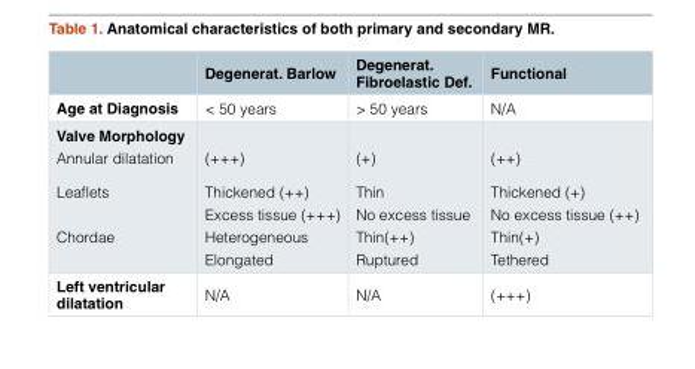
<table><thead><tr><td></td><td>Degenerat. Barlow</td><td>Degenerat. Fibroelastic Def.</td><td>Functional</td></tr></thead><tbody><tr><td>Age at Diagnosis</td><td>&lt; 50 years</td><td>&gt; 50 years</td><td>N/A</td></tr><tr><td>Valve Morphology Annular dilatation Leaflets Chordae</td><td>(+++) Thickened (++) Excess tissue (+++) Heterogeneous Elongated</td><td>(+) Thin No excess tissue Thin(++) Ruptured</td><td>(++) Thickened (+) No excess tissue (++) Thin(+) Tethered</td></tr><tr><td>Left ventricular dilatation</td><td>N/A</td><td>N/A</td><td>(+++)</td></tr></tbody></table>